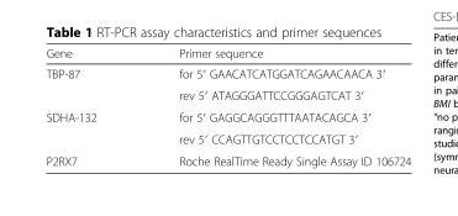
<table><thead><tr><td>Gene</td><td>Primer sequence</td></tr></thead><tbody><tr><td rowspan="2">TBP-87</td><td>for 5′ GAACATCATGGATCAGAACAACA 3′</td></tr><tr><td>rev 5′ ATAGGGATTCCGGGAGTCAT 3′</td></tr><tr><td rowspan="2">SDHA-132</td><td>for 5′ GAGGCAGGGTTTAATACAGCA 3′</td></tr><tr><td>rev 5′ CCAGTTGTCCTCCTCCATGT 3′</td></tr><tr><td>P2RX7</td><td>Roche RealTime Ready Single Assay ID 106724</td></tr></tbody></table>